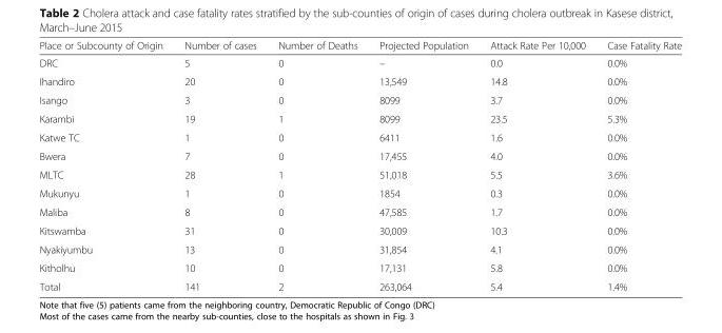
<table><thead><tr><td>Place or Subcounty of Origin</td><td>Number of cases</td><td>Number of Deaths</td><td>Projected Population</td><td>Attack Rate Per 10,000</td><td>Case Fatality Rate</td></tr></thead><tbody><tr><td>DRC</td><td>5</td><td>0</td><td>–</td><td>0.0</td><td>0.0%</td></tr><tr><td>Ihandiro</td><td>20</td><td>0</td><td>13,549</td><td>14.8</td><td>0.0%</td></tr><tr><td>Isango</td><td>3</td><td>0</td><td>8099</td><td>3.7</td><td>0.0%</td></tr><tr><td>Karambi</td><td>19</td><td>1</td><td>8099</td><td>23.5</td><td>5.3%</td></tr><tr><td>Katwe TC</td><td>1</td><td>0</td><td>6411</td><td>1.6</td><td>0.0%</td></tr><tr><td>Bwera</td><td>7</td><td>0</td><td>17,455</td><td>4.0</td><td>0.0%</td></tr><tr><td>MLTC</td><td>28</td><td>1</td><td>51,018</td><td>5.5</td><td>3.6%</td></tr><tr><td>Mukunyu</td><td>1</td><td>0</td><td>1854</td><td>0.3</td><td>0.0%</td></tr><tr><td>Maliba</td><td>8</td><td>0</td><td>47,585</td><td>1.7</td><td>0.0%</td></tr><tr><td>Kitswamba</td><td>31</td><td>0</td><td>30,009</td><td>10.3</td><td>0.0%</td></tr><tr><td>Nyakiyumbu</td><td>13</td><td>0</td><td>31,854</td><td>4.1</td><td>0.0%</td></tr><tr><td>Kitholhu</td><td>10</td><td>0</td><td>17,131</td><td>5.8</td><td>0.0%</td></tr><tr><td>Total</td><td>141</td><td>2</td><td>263,064</td><td>5.4</td><td>1.4%</td></tr></tbody></table>